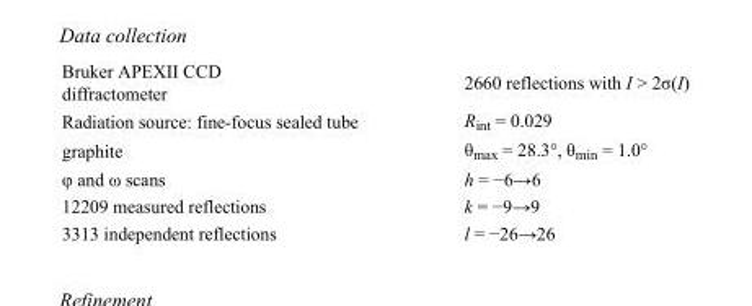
<table><tbody><tr><td>Bruker APEXII CCD diffractometer</td><td>2660 reflections with I &gt; 2σ(I)</td></tr><tr><td>Radiation source: fine-focus sealed tube</td><td>R<sub>int</sub> = 0.029</td></tr><tr><td>graphite</td><td>θ<sub>max</sub> = 28.3°, θ<sub>min</sub> = 1.0°</td></tr><tr><td>φ and ω scans</td><td>h = −6→6</td></tr><tr><td>12209 measured reflections</td><td>k = −9→9</td></tr><tr><td>3313 independent reflections</td><td>l = −26→26</td></tr></tbody></table>